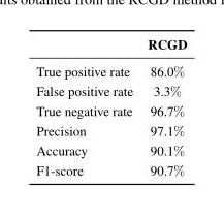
<table><thead><tr><td></td><td>RCGD</td></tr></thead><tbody><tr><td>True positive rate</td><td>86.0%</td></tr><tr><td>False positive rate</td><td>3.3%</td></tr><tr><td>True negative rate</td><td>96.7%</td></tr><tr><td>Precision</td><td>97.1%</td></tr><tr><td>Accuracy</td><td>90.1%</td></tr><tr><td>F1-score</td><td>90.7%</td></tr></tbody></table>